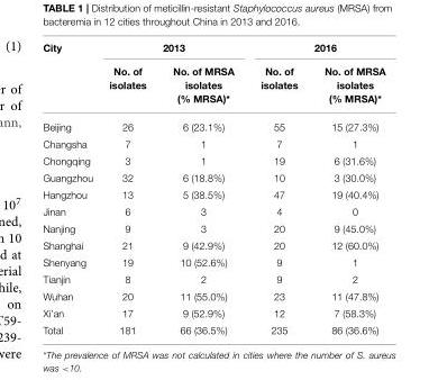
<table><thead><tr><td rowspan="2">City</td><td colspan="2">2013</td><td colspan="2">2016</td></tr><tr><td>No. of isolates</td><td>No. of MRSA isolates (% MRSA)*</td><td>No. of isolates</td><td>No. of MRSA isolates (% MRSA)*</td></tr></thead><tbody><tr><td>Beijing</td><td>26</td><td>6 (23.1%)</td><td>55</td><td>15 (27.3%)</td></tr><tr><td>Changsha</td><td>7</td><td>1</td><td>7</td><td>1</td></tr><tr><td>Chongqing</td><td>3</td><td>1</td><td>19</td><td>6 (31.6%)</td></tr><tr><td>Guangzhou</td><td>32</td><td>6 (18.8%)</td><td>10</td><td>3 (30.0%)</td></tr><tr><td>Hangzhou</td><td>13</td><td>5 (38.5%)</td><td>47</td><td>19 (40.4%)</td></tr><tr><td>Jinan</td><td>6</td><td>3</td><td>4</td><td>0</td></tr><tr><td>Nanjing</td><td>9</td><td>3</td><td>20</td><td>9 (45.0%)</td></tr><tr><td>Shanghai</td><td>21</td><td>9 (42.9%)</td><td>20</td><td>12 (60.0%)</td></tr><tr><td>Shenyang</td><td>19</td><td>10 (52.6%)</td><td>9</td><td>1</td></tr><tr><td>Tianjin</td><td>8</td><td>2</td><td>9</td><td>2</td></tr><tr><td>Wuhan</td><td>20</td><td>11 (55.0%)</td><td>23</td><td>11 (47.8%)</td></tr><tr><td>Xi’an</td><td>17</td><td>9 (52.9%)</td><td>12</td><td>7 (58.3%)</td></tr><tr><td>Total</td><td>181</td><td>66 (36.5%)</td><td>235</td><td>86 (36.6%)</td></tr></tbody></table>